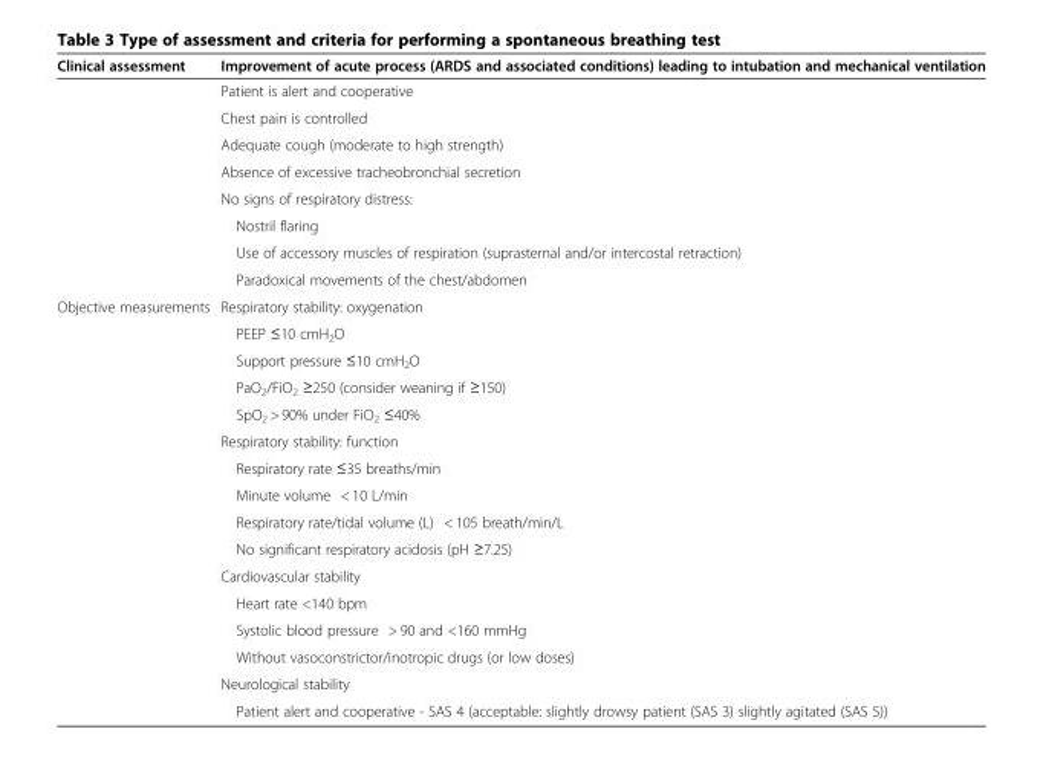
<table><thead><tr><td>Clinical assessment</td><td>Improvement of acute process (ARDS and associated conditions) leading to intubation and mechanical ventilation</td></tr></thead><tbody><tr><td></td><td>Patient is alert and cooperative</td></tr><tr><td></td><td>Chest pain is controlled</td></tr><tr><td></td><td>Adequate cough (moderate to high strength)</td></tr><tr><td></td><td>Absence of excessive tracheobronchial secretion</td></tr><tr><td></td><td>No signs of respiratory distress:</td></tr><tr><td></td><td>Nostril flaring</td></tr><tr><td></td><td>Use of accessory muscles of respiration (suprasternal and/or intercostal retraction)</td></tr><tr><td></td><td>Paradoxical movements of the chest/abdomen</td></tr><tr><td rowspan="16">Objective measurements</td><td>Respiratory stability: oxygenation</td></tr><tr><td>PEEP ≤10 cmH<sub>2</sub>O</td></tr><tr><td>Support pressure ≤10 cmH<sub>2</sub>O</td></tr><tr><td>PaO<sub>2</sub>/FiO<sub>2</sub> ≥250 (consider weaning if ≥150)</td></tr><tr><td>SpO<sub>2</sub> &gt; 90% under FiO<sub>2</sub> ≤40%</td></tr><tr><td>Respiratory stability: function</td></tr><tr><td>Respiratory rate ≤35 breaths/min</td></tr><tr><td>Minute volume &lt; 10 L/min</td></tr><tr><td>Respiratory rate/tidal volume (L) &lt; 105 breath/min/L</td></tr><tr><td>No significant respiratory acidosis (pH ≥7.25)</td></tr><tr><td>Cardiovascular stability</td></tr><tr><td>Heart rate &lt;140 bpm</td></tr><tr><td>Systolic blood pressure &gt; 90 and &lt;160 mmHg</td></tr><tr><td>Without vasoconstrictor/inotropic drugs (or low doses)</td></tr><tr><td>Neurological stability</td></tr><tr><td>Patient alert and cooperative - SAS 4 (acceptable: slightly drowsy patient (SAS 3) slightly agitated (SAS 5))</td></tr></tbody></table>